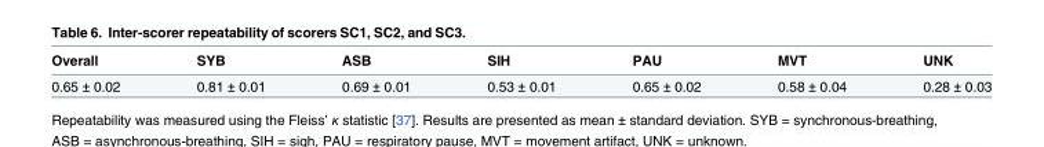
<table><thead><tr><td>Overall</td><td>SYB</td><td>ASB</td><td>SIH</td><td>PAU</td><td>MVT</td><td>UNK</td></tr></thead><tbody><tr><td>0.65 ± 0.02</td><td>0.81 ± 0.01</td><td>0.69 ± 0.01</td><td>0.53 ± 0.01</td><td>0.65 ± 0.02</td><td>0.58 ± 0.04</td><td>0.28 ± 0.03</td></tr></tbody></table>